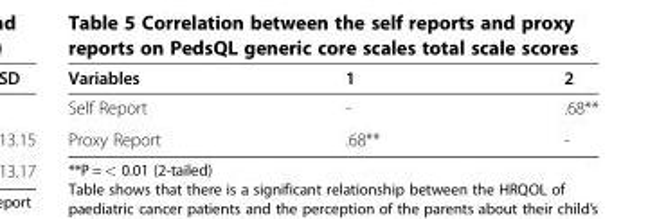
<table><thead><tr><td>Variables</td><td>1</td><td>2</td></tr></thead><tbody><tr><td>Self Report</td><td>-</td><td>.68**</td></tr><tr><td>Proxy Report</td><td>.68**</td><td>-</td></tr></tbody></table>